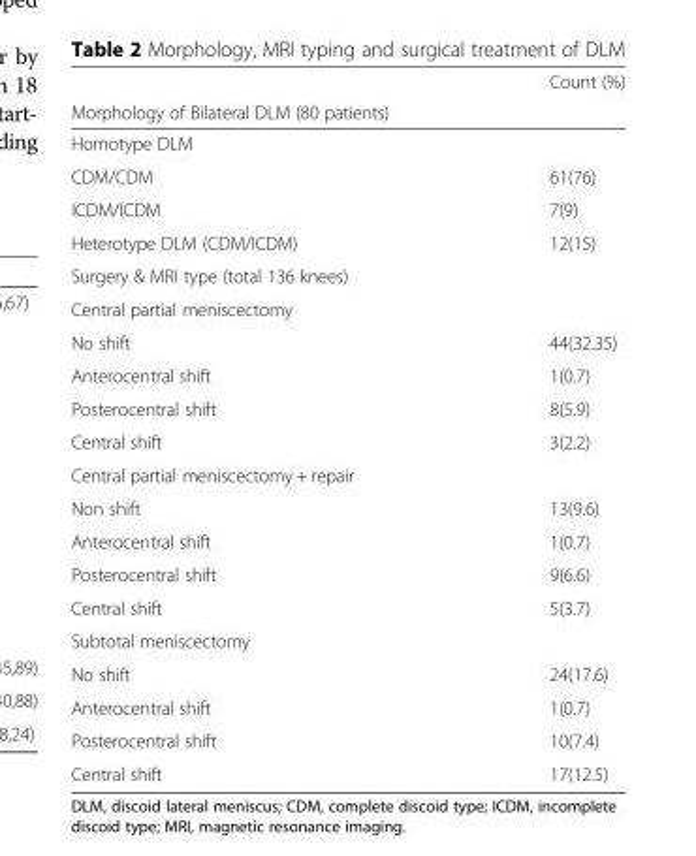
<table><thead><tr><td rowspan="2">Morphology of Bilateral DLM (80 patients)</td><td rowspan="2">Count (%)</td></tr><tr></tr></thead><tbody><tr><td colspan="2">Homotype DLM</td></tr><tr><td>CDM/CDM</td><td>61(76)</td></tr><tr><td>ICDM/ICDM</td><td>7(9)</td></tr><tr><td>Heterotype DLM (CDM/ICDM)</td><td>12(15)</td></tr><tr><td colspan="2">Surgery &amp; MRI type (total 136 knees)</td></tr><tr><td colspan="2">Central partial meniscectomy</td></tr><tr><td>No shift</td><td>44(32.35)</td></tr><tr><td>Anterocentral shift</td><td>1(0.7)</td></tr><tr><td>Posterocentral shift</td><td>8(5.9)</td></tr><tr><td>Central shift</td><td>3(2.2)</td></tr><tr><td colspan="2">Central partial meniscectomy + repair</td></tr><tr><td>Non shift</td><td>13(9.6)</td></tr><tr><td>Anterocentral shift</td><td>1(0.7)</td></tr><tr><td>Posterocentral shift</td><td>9(6.6)</td></tr><tr><td>Central shift</td><td>5(3.7)</td></tr><tr><td colspan="2">Subtotal meniscectomy</td></tr><tr><td>No shift</td><td>24(17.6)</td></tr><tr><td>Anterocentral shift</td><td>1(0.7)</td></tr><tr><td>Posterocentral shift</td><td>10(7.4)</td></tr><tr><td>Central shift</td><td>17(12.5)</td></tr></tbody></table>